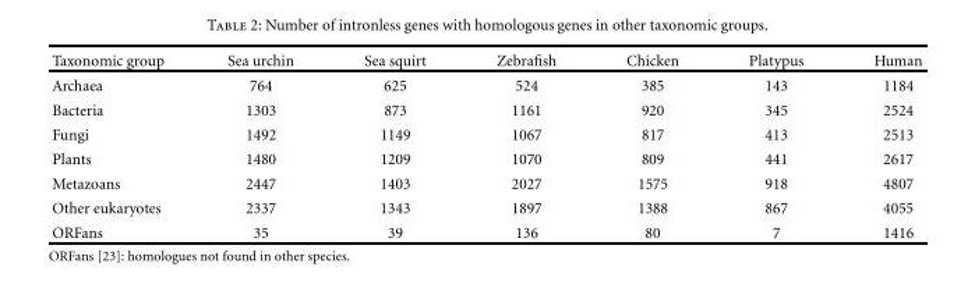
<table><thead><tr><td>Taxonomic group</td><td>Sea urchin</td><td>Sea squirt</td><td>Zebrafish</td><td>Chicken</td><td>Platypus</td><td>Human</td></tr></thead><tbody><tr><td>Archaea</td><td>764</td><td>625</td><td>524</td><td>385</td><td>143</td><td>1184</td></tr><tr><td>Bacteria</td><td>1303</td><td>873</td><td>1161</td><td>920</td><td>345</td><td>2524</td></tr><tr><td>Fungi</td><td>1492</td><td>1149</td><td>1067</td><td>817</td><td>413</td><td>2513</td></tr><tr><td>Plants</td><td>1480</td><td>1209</td><td>1070</td><td>809</td><td>441</td><td>2617</td></tr><tr><td>Metazoans</td><td>2447</td><td>1403</td><td>2027</td><td>1575</td><td>918</td><td>4807</td></tr><tr><td>Other eukaryotes</td><td>2337</td><td>1343</td><td>1897</td><td>1388</td><td>867</td><td>4055</td></tr><tr><td>ORFans</td><td>35</td><td>39</td><td>136</td><td>80</td><td>7</td><td>1416</td></tr></tbody></table>